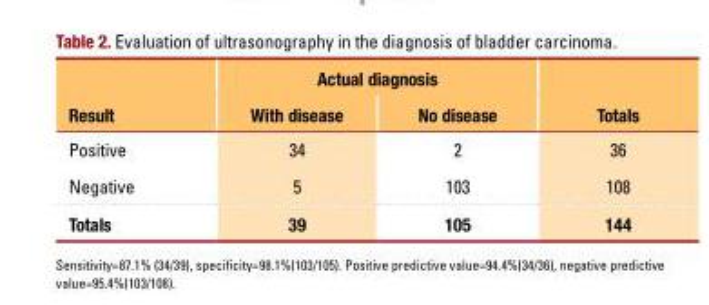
<table><thead><tr><td rowspan="2">Result</td><td colspan="2">Actual diagnosis</td><td rowspan="2">Totals</td></tr><tr><td>With disease</td><td>No disease</td></tr></thead><tbody><tr><td>Positive</td><td>34</td><td>2</td><td>36</td></tr><tr><td>Negative</td><td>5</td><td>103</td><td>108</td></tr><tr><td>Totals</td><td>39</td><td>105</td><td>144</td></tr></tbody></table>